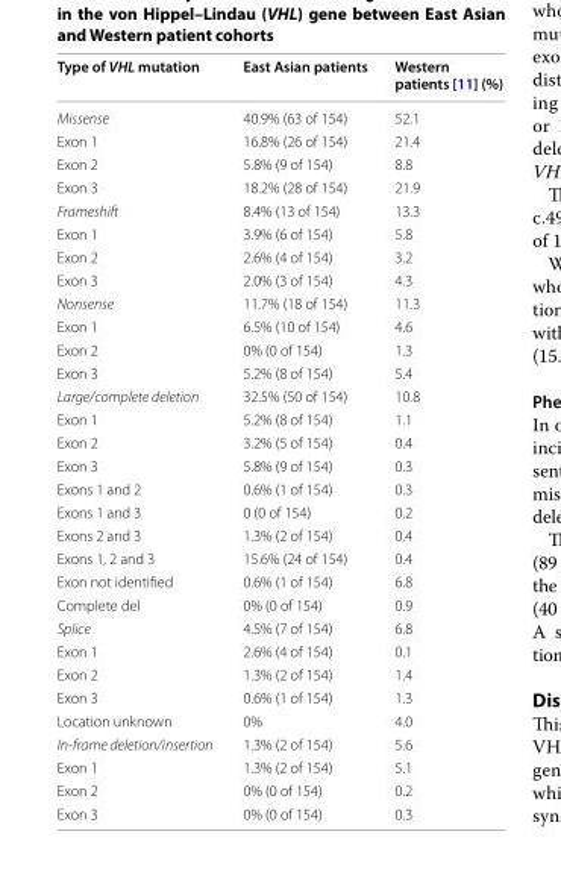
<table><thead><tr><td>Type of VHL mutation</td><td>East Asian patients</td><td>Western patients [11] (%)</td></tr></thead><tbody><tr><td>Missense</td><td>40.9% (63 of 154)</td><td>52.1</td></tr><tr><td>Exon 1</td><td>16.8% (26 of 154)</td><td>21.4</td></tr><tr><td>Exon 2</td><td>5.8% (9 of 154)</td><td>8.8</td></tr><tr><td>Exon 3</td><td>18.2% (28 of 154)</td><td>21.9</td></tr><tr><td>Frameshift</td><td>8.4% (13 of 154)</td><td>13.3</td></tr><tr><td>Exon 1</td><td>3.9% (6 of 154)</td><td>5.8</td></tr><tr><td>Exon 2</td><td>2.6% (4 of 154)</td><td>3.2</td></tr><tr><td>Exon 3</td><td>2.0% (3 of 154)</td><td>4.3</td></tr><tr><td>Nonsense</td><td>11.7% (18 of 154)</td><td>11.3</td></tr><tr><td>Exon 1</td><td>6.5% (10 of 154)</td><td>4.6</td></tr><tr><td>Exon 2</td><td>0% (0 of 154)</td><td>1.3</td></tr><tr><td>Exon 3</td><td>5.2% (8 of 154)</td><td>5.4</td></tr><tr><td>Large/complete deletion</td><td>32.5% (50 of 154)</td><td>10.8</td></tr><tr><td>Exon 1</td><td>5.2% (8 of 154)</td><td>1.1</td></tr><tr><td>Exon 2</td><td>3.2% (5 of 154)</td><td>0.4</td></tr><tr><td>Exon 3</td><td>5.8% (9 of 154)</td><td>0.3</td></tr><tr><td>Exons 1 and 2</td><td>0.6% (1 of 154)</td><td>0.3</td></tr><tr><td>Exons 1 and 3</td><td>0 (0 of 154)</td><td>0.2</td></tr><tr><td>Exons 2 and 3</td><td>1.3% (2 of 154)</td><td>0.4</td></tr><tr><td>Exons 1, 2 and 3</td><td>15.6% (24 of 154)</td><td>0.4</td></tr><tr><td>Exon not identified</td><td>0.6% (1 of 154)</td><td>6.8</td></tr><tr><td>Complete del</td><td>0% (0 of 154)</td><td>0.9</td></tr><tr><td>Splice</td><td>4.5% (7 of 154)</td><td>6.8</td></tr><tr><td>Exon 1</td><td>2.6% (4 of 154)</td><td>0.1</td></tr><tr><td>Exon 2</td><td>1.3% (2 of 154)</td><td>1.4</td></tr><tr><td>Exon 3</td><td>0.6% (1 of 154)</td><td>1.3</td></tr><tr><td>Location unknown</td><td>0%</td><td>4.0</td></tr><tr><td>In-frame deletion/insertion</td><td>1.3% (2 of 154)</td><td>5.6</td></tr><tr><td>Exon 1</td><td>1.3% (2 of 154)</td><td>5.1</td></tr><tr><td>Exon 2</td><td>0% (0 of 154)</td><td>0.2</td></tr><tr><td>Exon 3</td><td>0% (0 of 154)</td><td>0.3</td></tr></tbody></table>